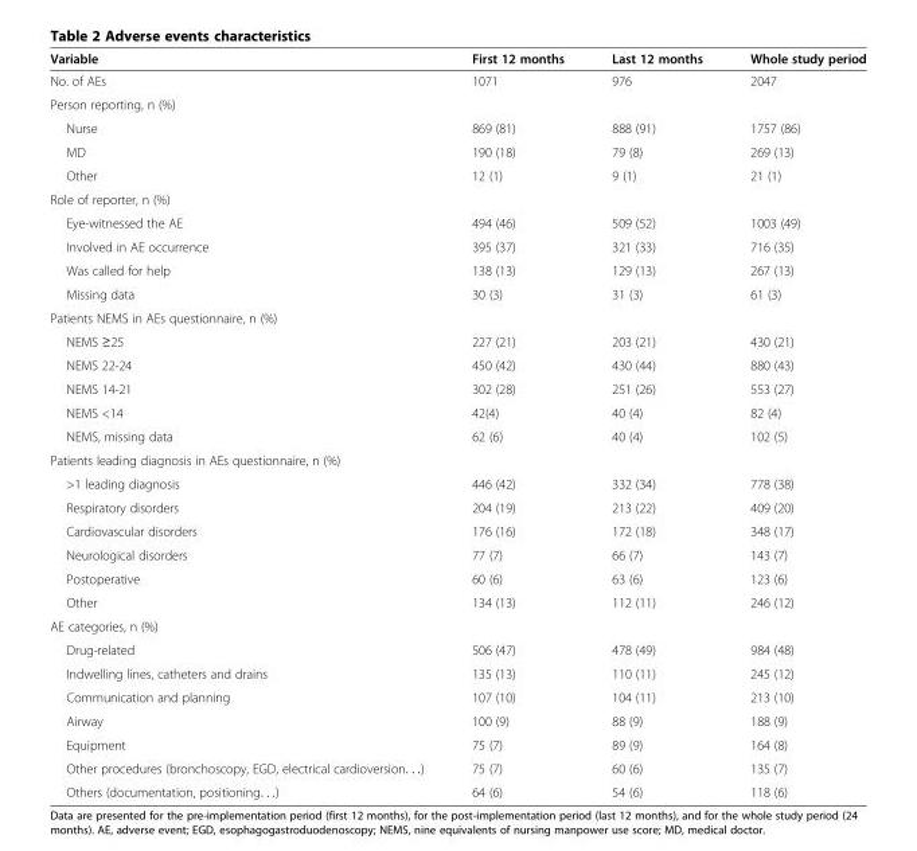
<table><thead><tr><td>Variable</td><td>First 12 months</td><td>Last 12 months</td><td>Whole study period</td></tr></thead><tbody><tr><td>No. of AEs</td><td>1071</td><td>976</td><td>2047</td></tr><tr><td colspan="4">Person reporting, n (%)</td></tr><tr><td>Nurse</td><td>869 (81)</td><td>888 (91)</td><td>1757 (86)</td></tr><tr><td>MD</td><td>190 (18)</td><td>79 (8)</td><td>269 (13)</td></tr><tr><td>Other</td><td>12 (1)</td><td>9 (1)</td><td>21 (1)</td></tr><tr><td colspan="4">Role of reporter, n (%)</td></tr><tr><td>Eye-witnessed the AE</td><td>494 (46)</td><td>509 (52)</td><td>1003 (49)</td></tr><tr><td>Involved in AE occurrence</td><td>395 (37)</td><td>321 (33)</td><td>716 (35)</td></tr><tr><td>Was called for help</td><td>138 (13)</td><td>129 (13)</td><td>267 (13)</td></tr><tr><td>Missing data</td><td>30 (3)</td><td>31 (3)</td><td>61 (3)</td></tr><tr><td colspan="4">Patients NEMS in AEs questionnaire, n (%)</td></tr><tr><td>NEMS ≥25</td><td>227 (21)</td><td>203 (21)</td><td>430 (21)</td></tr><tr><td>NEMS 22-24</td><td>450 (42)</td><td>430 (44)</td><td>880 (43)</td></tr><tr><td>NEMS 14-21</td><td>302 (28)</td><td>251 (26)</td><td>553 (27)</td></tr><tr><td>NEMS &lt;14</td><td>42(4)</td><td>40 (4)</td><td>82 (4)</td></tr><tr><td>NEMS, missing data</td><td>62 (6)</td><td>40 (4)</td><td>102 (5)</td></tr><tr><td colspan="4">Patients leading diagnosis in AEs questionnaire, n (%)</td></tr><tr><td>&gt;1 leading diagnosis</td><td>446 (42)</td><td>332 (34)</td><td>778 (38)</td></tr><tr><td>Respiratory disorders</td><td>204 (19)</td><td>213 (22)</td><td>409 (20)</td></tr><tr><td>Cardiovascular disorders</td><td>176 (16)</td><td>172 (18)</td><td>348 (17)</td></tr><tr><td>Neurological disorders</td><td>77 (7)</td><td>66 (7)</td><td>143 (7)</td></tr><tr><td>Postoperative</td><td>60 (6)</td><td>63 (6)</td><td>123 (6)</td></tr><tr><td>Other</td><td>134 (13)</td><td>112 (11)</td><td>246 (12)</td></tr><tr><td colspan="4">AE categories, n (%)</td></tr><tr><td>Drug-related</td><td>506 (47)</td><td>478 (49)</td><td>984 (48)</td></tr><tr><td>Indwelling lines, catheters and drains</td><td>135 (13)</td><td>110 (11)</td><td>245 (12)</td></tr><tr><td>Communication and planning</td><td>107 (10)</td><td>104 (11)</td><td>213 (10)</td></tr><tr><td>Airway</td><td>100 (9)</td><td>88 (9)</td><td>188 (9)</td></tr><tr><td>Equipment</td><td>75 (7)</td><td>89 (9)</td><td>164 (8)</td></tr><tr><td>Other procedures (bronchoscopy, EGD, electrical cardioversion. . .)</td><td>75 (7)</td><td>60 (6)</td><td>135 (7)</td></tr><tr><td>Others (documentation, positioning. . .)</td><td>64 (6)</td><td>54 (6)</td><td>118 (6)</td></tr></tbody></table>